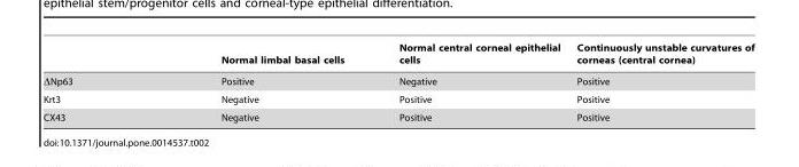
<table><thead><tr><td></td><td>Normal limbal basal cells</td><td>Normal central corneal epithelial cells</td><td>Continuously unstable curvatures of corneas (central cornea)</td></tr></thead><tbody><tr><td>ΔNp63</td><td>Positive</td><td>Negative</td><td>Positive</td></tr><tr><td>Krt3</td><td>Negative</td><td>Positive</td><td>Positive</td></tr><tr><td>CX43</td><td>Negative</td><td>Positive</td><td>Positive</td></tr></tbody></table>